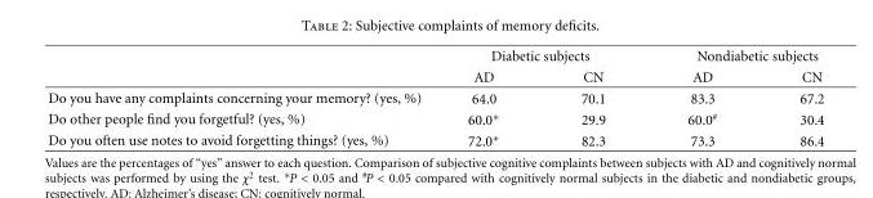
<table><thead><tr><td rowspan="2"></td><td colspan="2">Diabetic subjects</td><td colspan="2">Nondiabetic subjects</td></tr><tr><td>AD</td><td>CN</td><td>AD</td><td>CN</td></tr></thead><tbody><tr><td>Do you have any complaints concerning your memory? (yes, %)</td><td>64.0</td><td>70.1</td><td>83.3</td><td>67.2</td></tr><tr><td>Do other people find you forgetful? (yes, %)</td><td>60.0∗</td><td>29.9</td><td>60.0<sup>#</sup></td><td>30.4</td></tr><tr><td>Do you often use notes to avoid forgetting things? (yes, %)</td><td>72.0∗</td><td>82.3</td><td>73.3</td><td>86.4</td></tr></tbody></table>